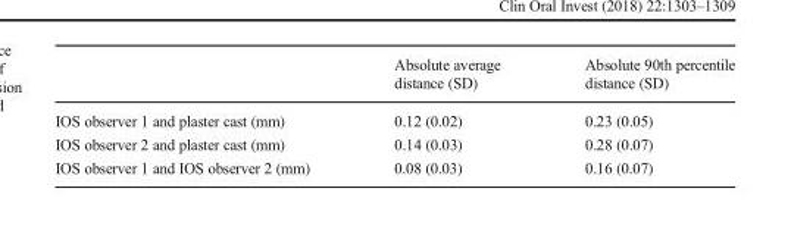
<table><thead><tr><td></td><td>Absolute average distance (SD)</td><td>Absolute 90th percentile distance (SD)</td></tr></thead><tbody><tr><td>IOS observer 1 and plaster cast (mm)</td><td>0.12 (0.02)</td><td>0.23 (0.05)</td></tr><tr><td>IOS observer 2 and plaster cast (mm)</td><td>0.14 (0.03)</td><td>0.28 (0.07)</td></tr><tr><td>IOS observer 1 and IOS observer 2 (mm)</td><td>0.08 (0.03)</td><td>0.16 (0.07)</td></tr></tbody></table>